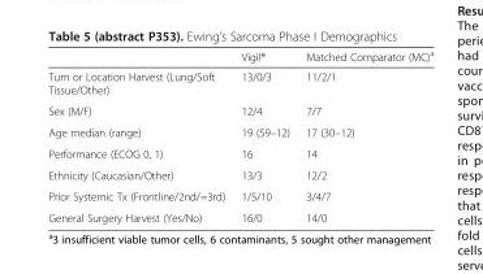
<table><thead><tr><td></td><td>Vigil®</td><td>Matched Comparator (MC)<sup>a</sup></td></tr></thead><tbody><tr><td>Tum or Location Harvest (Lung/Soft Tissue/Other)</td><td>13/0/3</td><td>11/2/1</td></tr><tr><td>Sex (M/F)</td><td>12/4</td><td>7/7</td></tr><tr><td>Age median (range)</td><td>19 (59–12)</td><td>17 (30–12)</td></tr><tr><td>Performance (ECOG 0, 1)</td><td>16</td><td>14</td></tr><tr><td>Ethnicity (Caucasian/Other)</td><td>13/3</td><td>12/2</td></tr><tr><td>Prior Systemic Tx (Frontline/2nd/=3rd)</td><td>1/5/10</td><td>3/4/7</td></tr><tr><td>General Surgery Harvest (Yes/No)</td><td>16/0</td><td>14/0</td></tr></tbody></table>